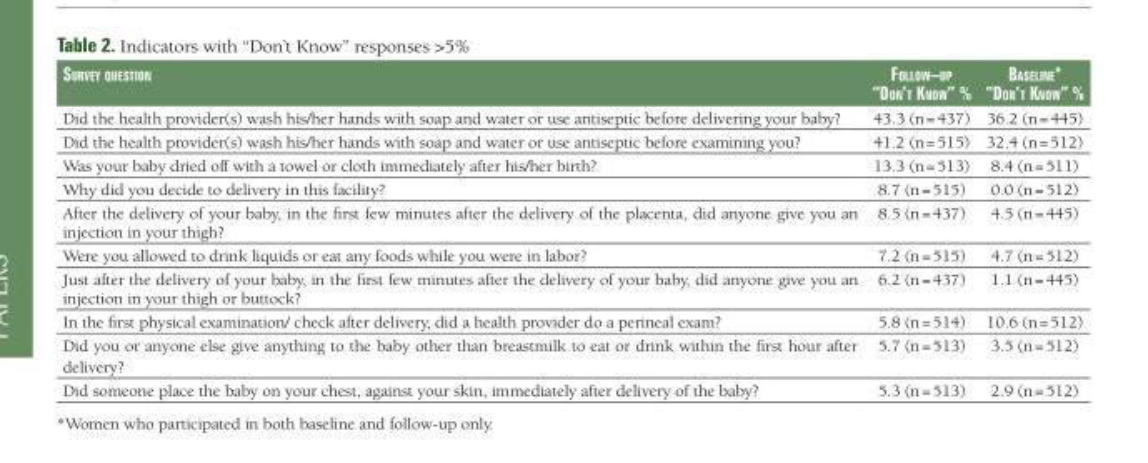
<table><thead><tr><td>survey question</td><td>follow–up “don’t Know” %</td><td>baseline* “don’t Know” %</td></tr></thead><tbody><tr><td>Did the health provider(s) wash his/her hands with soap and water or use antiseptic before delivering your baby?</td><td>43.3 (n = 437)</td><td>36.2 (n = 445)</td></tr><tr><td>Did the health provider(s) wash his/her hands with soap and water or use antiseptic before examining you?</td><td>41.2 (n = 515)</td><td>32.4 (n = 512)</td></tr><tr><td>Was your baby dried off with a towel or cloth immediately after his/her birth?</td><td>13.3 (n = 513)</td><td>8.4 (n = 511)</td></tr><tr><td>Why did you decide to delivery in this facility?</td><td>8.7 (n = 515)</td><td>0.0 (n = 512)</td></tr><tr><td>After the delivery of your baby, in the first few minutes after the delivery of the placenta, did anyone give you an injection in your thigh?</td><td>8.5 (n = 437)</td><td>4.5 (n = 445)</td></tr><tr><td>Were you allowed to drink liquids or eat any foods while you were in labor?</td><td>7.2 (n = 515)</td><td>4.7 (n = 512)</td></tr><tr><td>Just after the delivery of your baby, in the first few minutes after the delivery of your baby, did anyone give you an injection in your thigh or buttock?</td><td>6.2 (n = 437)</td><td>1.1 (n = 445)</td></tr><tr><td>In the first physical examination/ check after delivery, did a health provider do a perineal exam?</td><td>5.8 (n = 514)</td><td>10.6 (n = 512)</td></tr><tr><td>Did you or anyone else give anything to the baby other than breastmilk to eat or drink within the first hour after delivery?</td><td>5.7 (n = 513)</td><td>3.5 (n = 512)</td></tr><tr><td>Did someone place the baby on your chest, against your skin, immediately after delivery of the baby?</td><td>5.3 (n = 513)</td><td>2.9 (n = 512)</td></tr></tbody></table>